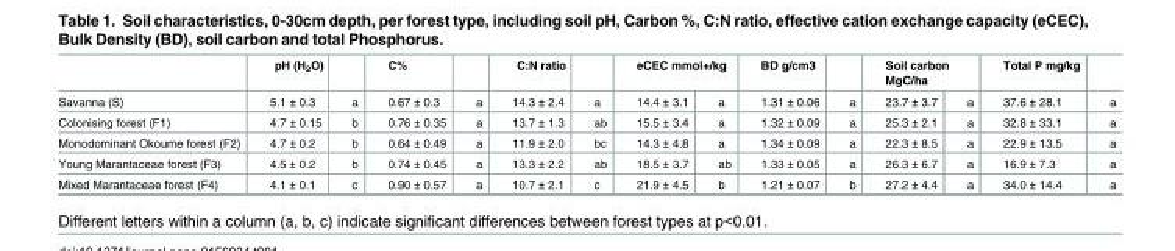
<table><thead><tr><td rowspan="2">Savanna (S)</td><td rowspan="2">pH (H<sub>2</sub>O) 5.1 ± 0.3</td><td rowspan="2">a</td><td rowspan="2">C% 0.67 ± 0.3</td><td rowspan="2">a</td><td rowspan="2">C:N ratio 14.3 ± 2.4</td><td rowspan="2">a</td><td colspan="2">eCEC mmol+/kg</td><td rowspan="2">BD g/cm3 1.31 ± 0.06</td><td rowspan="2">a</td><td colspan="2">Soil carbon MgC/ha</td><td rowspan="2">Total P mg/kg 37.6 ± 28.1</td><td rowspan="2">a</td></tr><tr><td>14.4 ± 3.1</td><td>a</td><td>23.7 ± 3.7</td><td>a</td></tr></thead><tbody><tr><td>Colonising forest (F1)</td><td>4.7 ± 0.15</td><td>b</td><td>0.76 ± 0.35</td><td>a</td><td>13.7 ± 1.3</td><td>ab</td><td>15.5 ± 3.4</td><td>a</td><td>1.32 ± 0.09</td><td>a</td><td>25.3 ± 2.1</td><td>a</td><td>32.8 ± 33.1</td><td>a</td></tr><tr><td>Monodominant Okoume forest (F2)</td><td>4.7 ± 0.2</td><td>b</td><td>0.64 ± 0.49</td><td>a</td><td>11.9 ± 2.0</td><td>bc</td><td>14.3 ± 4.8</td><td>a</td><td>1.34 ± 0.09</td><td>a</td><td>22.3 ± 8.5</td><td>a</td><td>22.9 ± 13.5</td><td>a</td></tr><tr><td>Young Marantaceae forest (F3)</td><td>4.5 ± 0.2</td><td>b</td><td>0.74 ± 0.45</td><td>a</td><td>13.3 ± 2.2</td><td>ab</td><td>18.5 ± 3.7</td><td>ab</td><td>1.33 ± 0.05</td><td>a</td><td>26.3 ± 6.7</td><td>a</td><td>16.9 ± 7.3</td><td>a</td></tr><tr><td>Mixed Marantaceae forest (F4)</td><td>4.1 ± 0.1</td><td>c</td><td>0.90 ± 0.57</td><td>a</td><td>10.7 ± 2.1</td><td>c</td><td>21.9 ± 4.5</td><td>b</td><td>1.21 ± 0.07</td><td>b</td><td>27.2 ± 4.4</td><td>a</td><td>34.0 ± 14.4</td><td>a</td></tr></tbody></table>